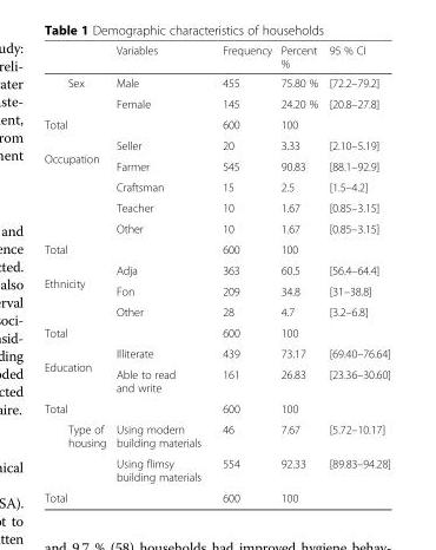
<table><thead><tr><td></td><td>Variables</td><td>Frequency</td><td>Percent %</td><td>95 % CI</td></tr></thead><tbody><tr><td rowspan="2">Sex</td><td>Male</td><td>455</td><td>75.80 %</td><td>[72.2–79.2]</td></tr><tr><td>Female</td><td>145</td><td>24.20 %</td><td>[20.8–27.8]</td></tr><tr><td>Total</td><td></td><td>600</td><td>100</td><td></td></tr><tr><td rowspan="5">Occupation</td><td>Seller</td><td>20</td><td>3.33</td><td>[2.10–5.19]</td></tr><tr><td>Farmer</td><td>545</td><td>90.83</td><td>[88.1–92.9]</td></tr><tr><td>Craftsman</td><td>15</td><td>2.5</td><td>[1.5–4.2]</td></tr><tr><td>Teacher</td><td>10</td><td>1.67</td><td>[0.85–3.15]</td></tr><tr><td>Other</td><td>10</td><td>1.67</td><td>[0.85–3.15]</td></tr><tr><td>Total</td><td></td><td>600</td><td>100</td><td></td></tr><tr><td rowspan="3">Ethnicity</td><td>Adja</td><td>363</td><td>60.5</td><td>[56.4–64.4]</td></tr><tr><td>Fon</td><td>209</td><td>34.8</td><td>[31–38.8]</td></tr><tr><td>Other</td><td>28</td><td>4.7</td><td>[3.2–6.8]</td></tr><tr><td>Total</td><td></td><td>600</td><td>100</td><td></td></tr><tr><td rowspan="2">Education</td><td>Illiterate</td><td>439</td><td>73.17</td><td>[69.40–76.64]</td></tr><tr><td>Able to read and write</td><td>161</td><td>26.83</td><td>[23.36–30.60]</td></tr><tr><td>Total</td><td></td><td>600</td><td>100</td><td></td></tr><tr><td rowspan="2">Type of housing</td><td>Using modern building materials</td><td>46</td><td>7.67</td><td>[5.72–10.17]</td></tr><tr><td>Using flimsy building materials</td><td>554</td><td>92.33</td><td>[89.83–94.28]</td></tr><tr><td>Total</td><td></td><td>600</td><td>100</td><td></td></tr></tbody></table>